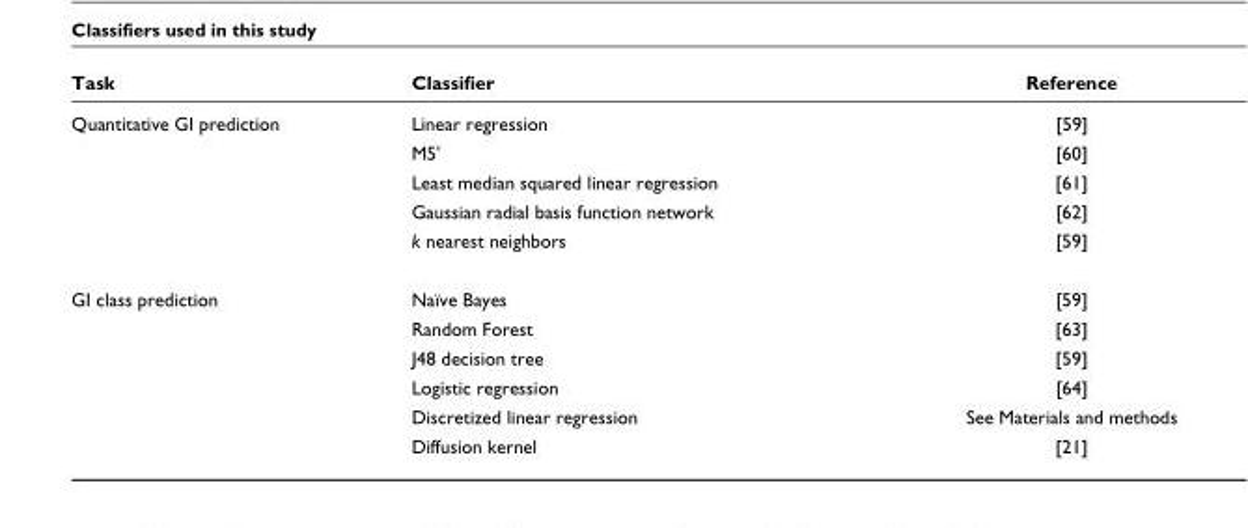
<table><thead><tr><td>Task</td><td>Classifier</td><td>Reference</td></tr></thead><tbody><tr><td rowspan="5">Quantitative GI prediction</td><td>Linear regression</td><td>[59]</td></tr><tr><td>M5&#x27;</td><td>[60]</td></tr><tr><td>Least median squared linear regression</td><td>[61]</td></tr><tr><td>Gaussian radial basis function network</td><td>[62]</td></tr><tr><td>k nearest neighbors</td><td>[59]</td></tr><tr><td rowspan="6">GI class prediction</td><td>Naïve Bayes</td><td>[59]</td></tr><tr><td>Random Forest</td><td>[63]</td></tr><tr><td>J48 decision tree</td><td>[59]</td></tr><tr><td>Logistic regression</td><td>[64]</td></tr><tr><td>Discretized linear regression</td><td>See Materials and methods</td></tr><tr><td>Diffusion kernel</td><td>[21]</td></tr></tbody></table>